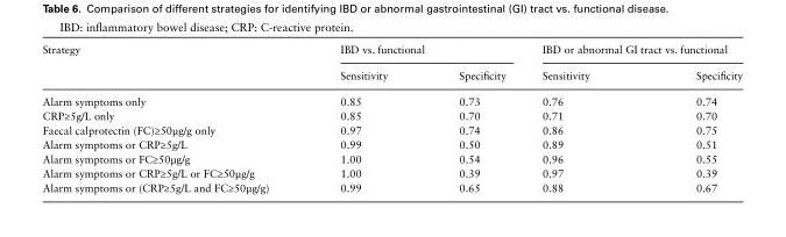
<table><thead><tr><td rowspan="2">Strategy</td><td colspan="2">IBD vs. functional</td><td colspan="2">IBD or abnormal GI tract vs. functional</td></tr><tr><td>Sensitivity</td><td>Specificity</td><td>Sensitivity</td><td>Specificity</td></tr></thead><tbody><tr><td>Alarm symptoms only</td><td>0.85</td><td>0.73</td><td>0.76</td><td>0.74</td></tr><tr><td>CRP≥5g/L only</td><td>0.85</td><td>0.70</td><td>0.71</td><td>0.70</td></tr><tr><td>Faecal calprotectin (FC)≥50μg/g only</td><td>0.97</td><td>0.74</td><td>0.86</td><td>0.75</td></tr><tr><td>Alarm symptoms or CRP≥5g/L</td><td>0.99</td><td>0.50</td><td>0.89</td><td>0.51</td></tr><tr><td>Alarm symptoms or FC≥50μg/g</td><td>1.00</td><td>0.54</td><td>0.96</td><td>0.55</td></tr><tr><td>Alarm symptoms or CRP≥5g/L or FC≥50μg/g</td><td>1.00</td><td>0.39</td><td>0.97</td><td>0.39</td></tr><tr><td>Alarm symptoms or (CRP≥5g/L and FC≥50μg/g)</td><td>0.99</td><td>0.65</td><td>0.88</td><td>0.67</td></tr></tbody></table>